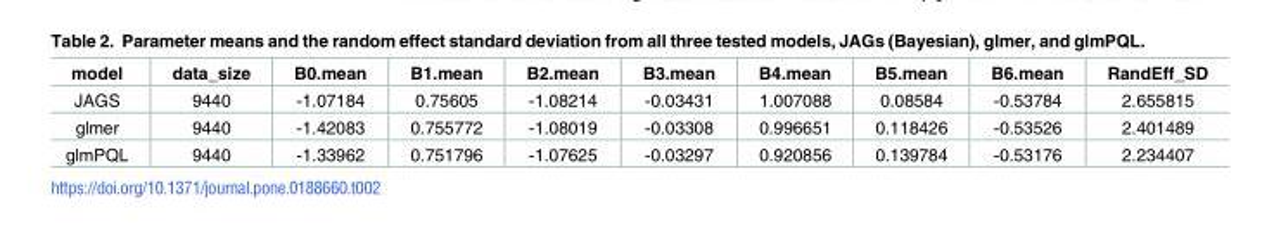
<table><thead><tr><td>model</td><td>data_size</td><td>B0.mean</td><td>B1.mean</td><td>B2.mean</td><td>B3.mean</td><td>B4.mean</td><td>B5.mean</td><td>B6.mean</td><td>RandEff_SD</td></tr></thead><tbody><tr><td>JAGS</td><td>9440</td><td>-1.07184</td><td>0.75605</td><td>-1.08214</td><td>-0.03431</td><td>1.007088</td><td>0.08584</td><td>-0.53784</td><td>2.655815</td></tr><tr><td>glmer</td><td>9440</td><td>-1.42083</td><td>0.755772</td><td>-1.08019</td><td>-0.03308</td><td>0.996651</td><td>0.118426</td><td>-0.53526</td><td>2.401489</td></tr><tr><td>glmPQL</td><td>9440</td><td>-1.33962</td><td>0.751796</td><td>-1.07625</td><td>-0.03297</td><td>0.920856</td><td>0.139784</td><td>-0.53176</td><td>2.234407</td></tr></tbody></table>